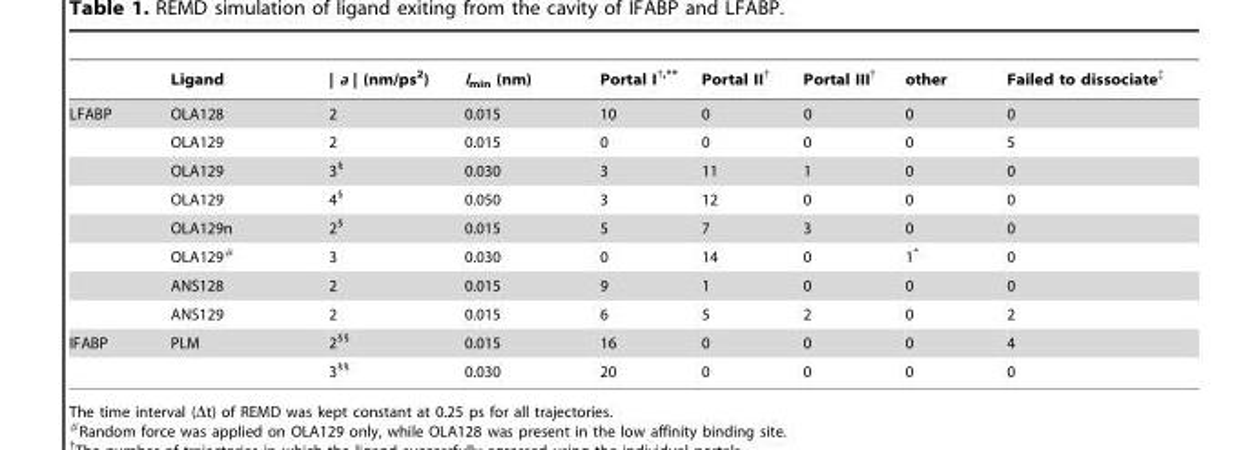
<table><thead><tr><td></td><td>Ligand</td><td>| a | (nm/ps<sup>2</sup>)</td><td>l<sub>min</sub> (nm)</td><td>Portal I†,**</td><td>Portal II†</td><td>Portal III†</td><td>other</td><td>Failed to dissociate‡</td></tr></thead><tbody><tr><td rowspan="8">LFABP</td><td>OLA128</td><td>2</td><td>0.015</td><td>10</td><td>0</td><td>0</td><td>0</td><td>0</td></tr><tr><td>OLA129</td><td>2</td><td>0.015</td><td>0</td><td>0</td><td>0</td><td>0</td><td>5</td></tr><tr><td>OLA129</td><td>3§</td><td>0.030</td><td>3</td><td>11</td><td>1</td><td>0</td><td>0</td></tr><tr><td>OLA129</td><td>4§</td><td>0.050</td><td>3</td><td>12</td><td>0</td><td>0</td><td>0</td></tr><tr><td>OLA129n</td><td>2§</td><td>0.015</td><td>5</td><td>7</td><td>3</td><td>0</td><td>0</td></tr><tr><td>OLA129#</td><td>3</td><td>0.030</td><td>0</td><td>14</td><td>0</td><td>1*</td><td>0</td></tr><tr><td>ANS128</td><td>2</td><td>0.015</td><td>9</td><td>1</td><td>0</td><td>0</td><td>0</td></tr><tr><td>ANS129</td><td>2</td><td>0.015</td><td>6</td><td>5</td><td>2</td><td>0</td><td>2</td></tr><tr><td rowspan="2">IFABP</td><td>PLM</td><td>2§§</td><td>0.015</td><td>16</td><td>0</td><td>0</td><td>0</td><td>4</td></tr><tr><td></td><td>3§§</td><td>0.030</td><td>20</td><td>0</td><td>0</td><td>0</td><td>0</td></tr></tbody></table>